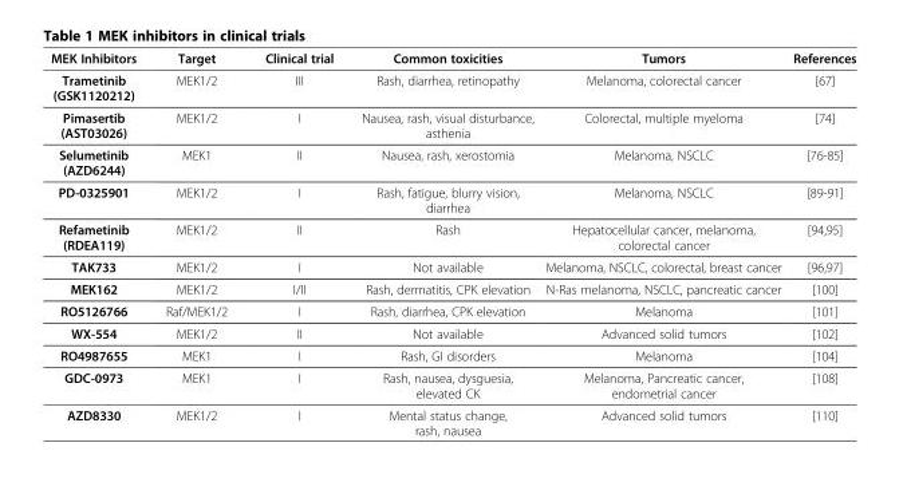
<table><thead><tr><td>MEK Inhibitors</td><td>Target</td><td>Clinical trial</td><td>Common toxicities</td><td>Tumors</td><td>References</td></tr></thead><tbody><tr><td>Trametinib (GSK1120212)</td><td>MEK1/2</td><td>III</td><td>Rash, diarrhea, retinopathy</td><td>Melanoma, colorectal cancer</td><td>[67]</td></tr><tr><td>Pimasertib (AST03026)</td><td>MEK1/2</td><td>I</td><td>Nausea, rash, visual disturbance, asthenia</td><td>Colorectal, multiple myeloma</td><td>[74]</td></tr><tr><td>Selumetinib (AZD6244)</td><td>MEK1</td><td>II</td><td>Nausea, rash, xerostomia</td><td>Melanoma, NSCLC</td><td>[76-85]</td></tr><tr><td>PD-0325901</td><td>MEK1/2</td><td>I</td><td>Rash, fatigue, blurry vision, diarrhea</td><td>Melanoma, NSCLC</td><td>[89-91]</td></tr><tr><td>Refametinib (RDEA119)</td><td>MEK1/2</td><td>II</td><td>Rash</td><td>Hepatocellular cancer, melanoma, colorectal cancer</td><td>[94,95]</td></tr><tr><td>TAK733</td><td>MEK1/2</td><td>I</td><td>Not available</td><td>Melanoma, NSCLC, colorectal, breast cancer</td><td>[96,97]</td></tr><tr><td>MEK162</td><td>MEK1/2</td><td>I/II</td><td>Rash, dermatitis, CPK elevation</td><td>N-Ras melanoma, NSCLC, pancreatic cancer</td><td>[100]</td></tr><tr><td>RO5126766</td><td>Raf/MEK1/2</td><td>I</td><td>Rash, diarrhea, CPK elevation</td><td>Melanoma</td><td>[101]</td></tr><tr><td>WX-554</td><td>MEK1/2</td><td>II</td><td>Not available</td><td>Advanced solid tumors</td><td>[102]</td></tr><tr><td>RO4987655</td><td>MEK1</td><td>I</td><td>Rash, GI disorders</td><td>Melanoma</td><td>[104]</td></tr><tr><td>GDC-0973</td><td>MEK1</td><td>I</td><td>Rash, nausea, dysguesia, elevated CK</td><td>Melanoma, Pancreatic cancer, endometrial cancer</td><td>[108]</td></tr><tr><td>AZD8330</td><td>MEK1/2</td><td>I</td><td>Mental status change, rash, nausea</td><td>Advanced solid tumors</td><td>[110]</td></tr></tbody></table>